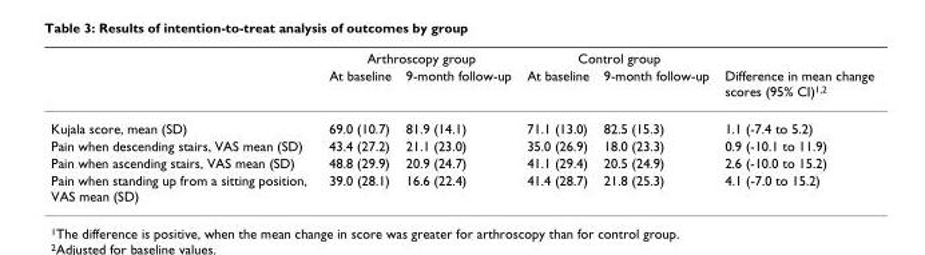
<table><thead><tr><td rowspan="2"></td><td colspan="2">Arthroscopy group</td><td colspan="2">Control group</td><td rowspan="2">Difference in mean change scores (95% CI)<sup>1,2</sup></td></tr><tr><td>At baseline</td><td>9-month follow-up</td><td>At baseline</td><td>9-month follow-up</td></tr></thead><tbody><tr><td>Kujala score, mean (SD)</td><td>69.0 (10.7)</td><td>81.9 (14.1)</td><td>71.1 (13.0)</td><td>82.5 (15.3)</td><td>1.1 (-7.4 to 5.2)</td></tr><tr><td>Pain when descending stairs, VAS mean (SD)</td><td>43.4 (27.2)</td><td>21.1 (23.0)</td><td>35.0 (26.9)</td><td>18.0 (23.3)</td><td>0.9 (-10.1 to 11.9)</td></tr><tr><td>Pain when ascending stairs, VAS mean (SD)</td><td>48.8 (29.9)</td><td>20.9 (24.7)</td><td>41.1 (29.4)</td><td>20.5 (24.9)</td><td>2.6 (-10.0 to 15.2)</td></tr><tr><td>Pain when standing up from a sitting position, VAS mean (SD)</td><td>39.0 (28.1)</td><td>16.6 (22.4)</td><td>41.4 (28.7)</td><td>21.8 (25.3)</td><td>4.1 (-7.0 to 15.2)</td></tr></tbody></table>